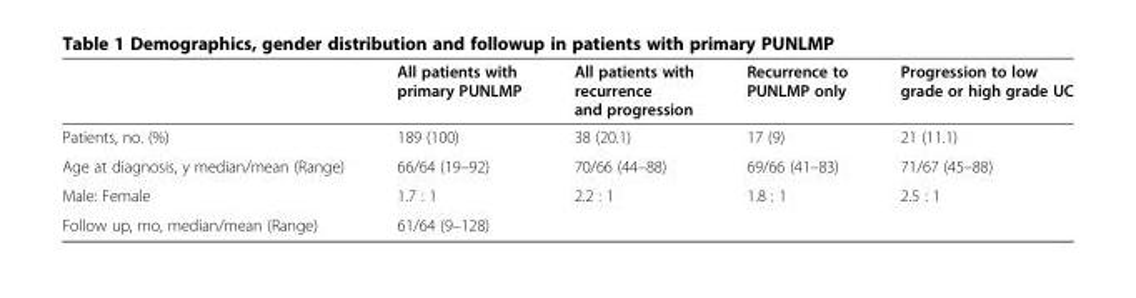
<table><thead><tr><td></td><td>All patients with primary PUNLMP</td><td>All patients with recurrence and progression</td><td>Recurrence to PUNLMP only</td><td>Progression to low grade or high grade UC</td></tr></thead><tbody><tr><td>Patients, no. (%)</td><td>189 (100)</td><td>38 (20.1)</td><td>17 (9)</td><td>21 (11.1)</td></tr><tr><td>Age at diagnosis, y median/mean (Range)</td><td>66/64 (19–92)</td><td>70/66 (44–88)</td><td>69/66 (41–83)</td><td>71/67 (45–88)</td></tr><tr><td>Male: Female</td><td>1.7 : 1</td><td>2.2 : 1</td><td>1.8 : 1</td><td>2.5 : 1</td></tr><tr><td>Follow up, mo, median/mean (Range)</td><td>61/64 (9–128)</td><td></td><td></td><td></td></tr></tbody></table>